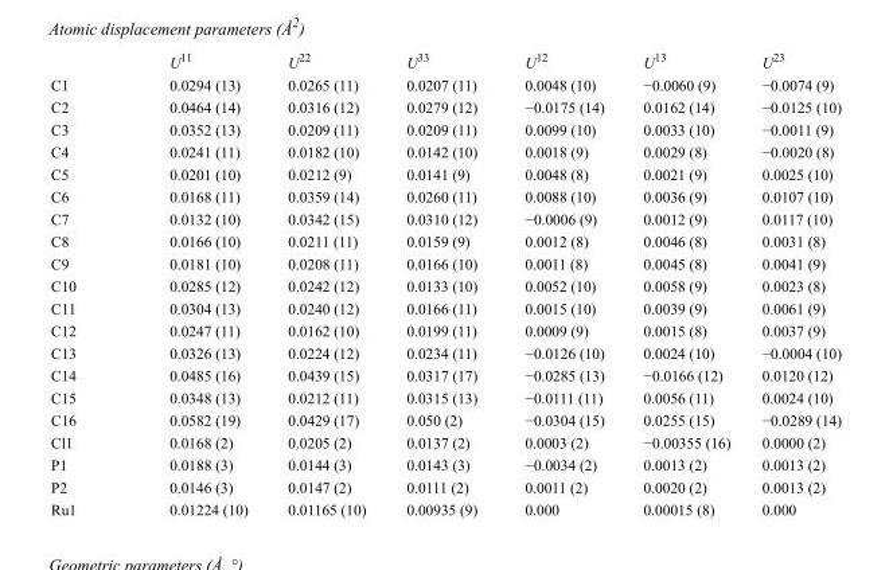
<table><thead><tr><td></td><td>U<sup>11</sup></td><td>U<sup>22</sup></td><td>U<sup>33</sup></td><td>U<sup>12</sup></td><td>U<sup>13</sup></td><td>U<sup>23</sup></td></tr></thead><tbody><tr><td>C1</td><td>0.0294 (13)</td><td>0.0265 (11)</td><td>0.0207 (11)</td><td>0.0048 (10)</td><td>−0.0060 (9)</td><td>−0.0074 (9)</td></tr><tr><td>C2</td><td>0.0464 (14)</td><td>0.0316 (12)</td><td>0.0279 (12)</td><td>−0.0175 (14)</td><td>0.0162 (14)</td><td>−0.0125 (10)</td></tr><tr><td>C3</td><td>0.0352 (13)</td><td>0.0209 (11)</td><td>0.0209 (11)</td><td>0.0099 (10)</td><td>0.0033 (10)</td><td>−0.0011 (9)</td></tr><tr><td>C4</td><td>0.0241 (11)</td><td>0.0182 (10)</td><td>0.0142 (10)</td><td>0.0018 (9)</td><td>0.0029 (8)</td><td>−0.0020 (8)</td></tr><tr><td>C5</td><td>0.0201 (10)</td><td>0.0212 (9)</td><td>0.0141 (9)</td><td>0.0048 (8)</td><td>0.0021 (9)</td><td>0.0025 (10)</td></tr><tr><td>C6</td><td>0.0168 (11)</td><td>0.0359 (14)</td><td>0.0260 (11)</td><td>0.0088 (10)</td><td>0.0036 (9)</td><td>0.0107 (10)</td></tr><tr><td>C7</td><td>0.0132 (10)</td><td>0.0342 (15)</td><td>0.0310 (12)</td><td>−0.0006 (9)</td><td>0.0012 (9)</td><td>0.0117 (10)</td></tr><tr><td>C8</td><td>0.0166 (10)</td><td>0.0211 (11)</td><td>0.0159 (9)</td><td>0.0012 (8)</td><td>0.0046 (8)</td><td>0.0031 (8)</td></tr><tr><td>C9</td><td>0.0181 (10)</td><td>0.0208 (11)</td><td>0.0166 (10)</td><td>0.0011 (8)</td><td>0.0045 (8)</td><td>0.0041 (9)</td></tr><tr><td>C10</td><td>0.0285 (12)</td><td>0.0242 (12)</td><td>0.0133 (10)</td><td>0.0052 (10)</td><td>0.0058 (9)</td><td>0.0023 (8)</td></tr><tr><td>C11</td><td>0.0304 (13)</td><td>0.0240 (12)</td><td>0.0166 (11)</td><td>0.0015 (10)</td><td>0.0039 (9)</td><td>0.0061 (9)</td></tr><tr><td>C12</td><td>0.0247 (11)</td><td>0.0162 (10)</td><td>0.0199 (11)</td><td>0.0009 (9)</td><td>0.0015 (8)</td><td>0.0037 (9)</td></tr><tr><td>C13</td><td>0.0326 (13)</td><td>0.0224 (12)</td><td>0.0234 (11)</td><td>−0.0126 (10)</td><td>0.0024 (10)</td><td>−0.0004 (10)</td></tr><tr><td>C14</td><td>0.0485 (16)</td><td>0.0439 (15)</td><td>0.0317 (17)</td><td>−0.0285 (13)</td><td>−0.0166 (12)</td><td>0.0120 (12)</td></tr><tr><td>C15</td><td>0.0348 (13)</td><td>0.0212 (11)</td><td>0.0315 (13)</td><td>−0.0111 (11)</td><td>0.0056 (11)</td><td>0.0024 (10)</td></tr><tr><td>C16</td><td>0.0582 (19)</td><td>0.0429 (17)</td><td>0.050 (2)</td><td>−0.0304 (15)</td><td>0.0255 (15)</td><td>−0.0289 (14)</td></tr><tr><td>Cl1</td><td>0.0168 (2)</td><td>0.0205 (2)</td><td>0.0137 (2)</td><td>0.0003 (2)</td><td>−0.00355 (16)</td><td>0.0000 (2)</td></tr><tr><td>P1</td><td>0.0188 (3)</td><td>0.0144 (3)</td><td>0.0143 (3)</td><td>−0.0034 (2)</td><td>0.0013 (2)</td><td>0.0013 (2)</td></tr><tr><td>P2</td><td>0.0146 (3)</td><td>0.0147 (2)</td><td>0.0111 (2)</td><td>0.0011 (2)</td><td>0.0020 (2)</td><td>0.0013 (2)</td></tr><tr><td>Ru1</td><td>0.01224 (10)</td><td>0.01165 (10)</td><td>0.00935 (9)</td><td>0.000</td><td>0.00015 (8)</td><td>0.000</td></tr></tbody></table>